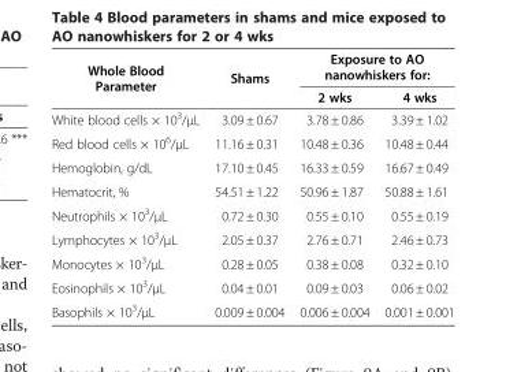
<table><thead><tr><td rowspan="2">Whole Blood Parameter</td><td rowspan="2">Shams</td><td colspan="2">Exposure to AO nanowhiskers for:</td></tr><tr><td>2 wks</td><td>4 wks</td></tr></thead><tbody><tr><td>White blood cells × 10<sup>3</sup>/μL</td><td>3.09 ± 0.67</td><td>3.78 ± 0.86</td><td>3.39 ± 1.02</td></tr><tr><td>Red blood cells × 10<sup>6</sup>/μL</td><td>11.16 ± 0.31</td><td>10.48 ± 0.36</td><td>10.48 ± 0.44</td></tr><tr><td>Hemoglobin, g/dL</td><td>17.10 ± 0.45</td><td>16.33 ± 0.59</td><td>16.67 ± 0.49</td></tr><tr><td>Hematocrit, %</td><td>54.51 ± 1.22</td><td>50.96 ± 1.87</td><td>50.88 ± 1.61</td></tr><tr><td>Neutrophils × 10<sup>3</sup>/μL</td><td>0.72 ± 0.30</td><td>0.55 ± 0.10</td><td>0.55 ± 0.19</td></tr><tr><td>Lymphocytes × 10<sup>3</sup>/μL</td><td>2.05 ± 0.37</td><td>2.76 ± 0.71</td><td>2.46 ± 0.73</td></tr><tr><td>Monocytes × 10<sup>3</sup>/μL</td><td>0.28 ± 0.05</td><td>0.38 ± 0.08</td><td>0.32 ± 0.10</td></tr><tr><td>Eosinophils × 10<sup>3</sup>/μL</td><td>0.04 ± 0.01</td><td>0.09 ± 0.03</td><td>0.06 ± 0.02</td></tr><tr><td>Basophils × 10<sup>3</sup>/μL</td><td>0.009 ± 0.004</td><td>0.006 ± 0.004</td><td>0.001 ± 0.001</td></tr></tbody></table>